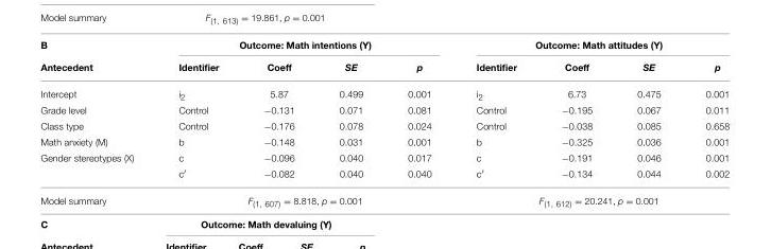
<table><thead><tr><td rowspan="2">B Antecedent</td><td colspan="4">Outcome: Math intentions (Y)</td><td colspan="4">Outcome: Math attitudes (Y)</td></tr><tr><td>Identifier</td><td>Coeff</td><td>SE</td><td>p</td><td>Identifier</td><td>Coeff</td><td>SE</td><td>p</td></tr></thead><tbody><tr><td>Intercept</td><td>i<sub>2</sub></td><td>5.87</td><td>0.499</td><td>0.001</td><td>i<sub>2</sub></td><td>6.73</td><td>0.475</td><td>0.001</td></tr><tr><td>Grade level</td><td>Control</td><td>−0.131</td><td>0.071</td><td>0.081</td><td>Control</td><td>−0.195</td><td>0.067</td><td>0.011</td></tr><tr><td>Class type</td><td>Control</td><td>−0.176</td><td>0.078</td><td>0.024</td><td>Control</td><td>−0.038</td><td>0.085</td><td>0.658</td></tr><tr><td>Math anxiety (M)</td><td>b</td><td>−0.148</td><td>0.031</td><td>0.001</td><td>b</td><td>−0.325</td><td>0.036</td><td>0.001</td></tr><tr><td rowspan="2">Gender stereotypes (X)</td><td>c</td><td>−0.096</td><td>0.040</td><td>0.017</td><td>c</td><td>−0.191</td><td>0.046</td><td>0.001</td></tr><tr><td>c′</td><td>−0.082</td><td>0.040</td><td>0.040</td><td>c′</td><td>−0.134</td><td>0.044</td><td>0.002</td></tr><tr><td>Model summary</td><td colspan="4">F<sub>(1, 607)</sub> = 8.818, p = 0.001</td><td colspan="4">F<sub>(1, 612)</sub> = 20.241, p = 0.001</td></tr></tbody></table>